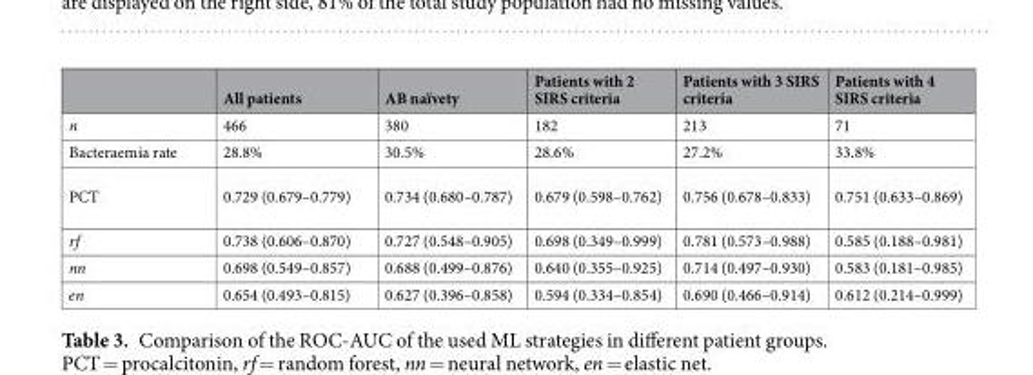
<table><thead><tr><td></td><td>All patients</td><td>AB naïvety</td><td>Patients with 2 SIRS criteria</td><td>Patients with 3 SIRS criteria</td><td>Patients with 4 SIRS criteria</td></tr></thead><tbody><tr><td>n</td><td>466</td><td>380</td><td>182</td><td>213</td><td>71</td></tr><tr><td>Bacteraemia rate</td><td>28.8%</td><td>30.5%</td><td>28.6%</td><td>27.2%</td><td>33.8%</td></tr><tr><td>PCT</td><td>0.729 (0.679–0.779)</td><td>0.734 (0.680–0.787)</td><td>0.679 (0.598–0.762)</td><td>0.756 (0.678–0.833)</td><td>0.751 (0.633–0.869)</td></tr><tr><td>rf</td><td>0.738 (0.606–0.870)</td><td>0.727 (0.548–0.905)</td><td>0.698 (0.349–0.999)</td><td>0.781 (0.573–0.988)</td><td>0.585 (0.188–0.981)</td></tr><tr><td>nn</td><td>0.698 (0.549–0.857)</td><td>0.688 (0.499–0.876)</td><td>0.640 (0.355–0.925)</td><td>0.714 (0.497–0.930)</td><td>0.583 (0.181–0.985)</td></tr><tr><td>en</td><td>0.654 (0.493–0.815)</td><td>0.627 (0.396–0.858)</td><td>0.594 (0.334–0.854)</td><td>0.690 (0.466–0.914)</td><td>0.612 (0.214–0.999)</td></tr></tbody></table>